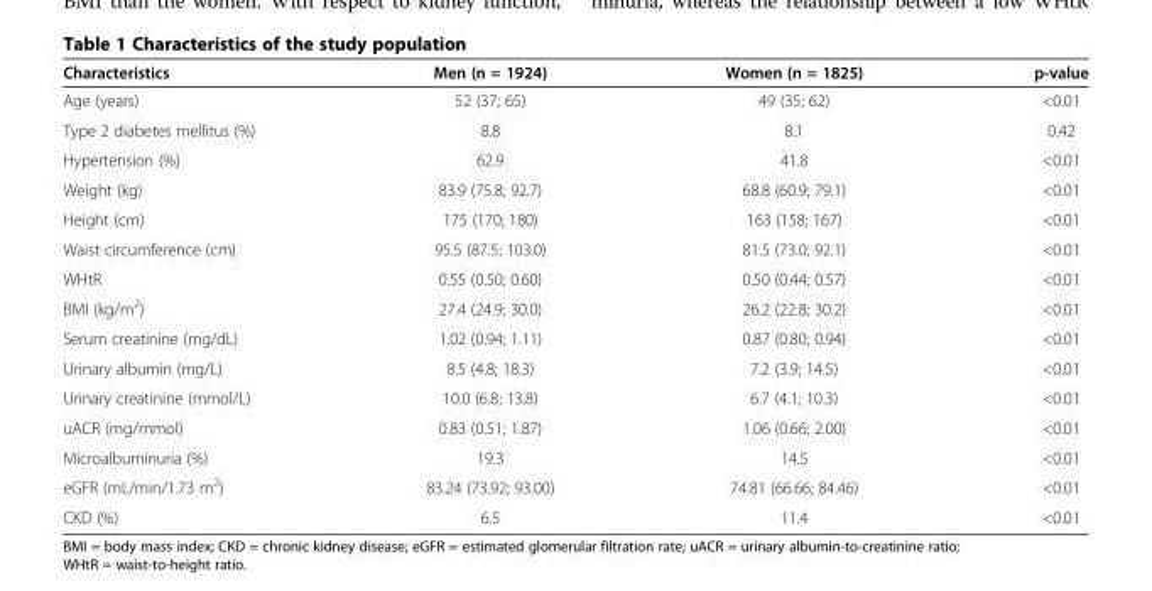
<table><thead><tr><td>Characteristics</td><td>Men (n = 1924)</td><td>Women (n = 1825)</td><td>p-value</td></tr></thead><tbody><tr><td>Age (years)</td><td>52 (37; 65)</td><td>49 (35; 62)</td><td>&lt;0.01</td></tr><tr><td>Type 2 diabetes mellitus (%)</td><td>8.8</td><td>8.1</td><td>0.42</td></tr><tr><td>Hypertension (%)</td><td>62.9</td><td>41.8</td><td>&lt;0.01</td></tr><tr><td>Weight (kg)</td><td>83.9 (75.8; 92.7)</td><td>68.8 (60.9; 79.1)</td><td>&lt;0.01</td></tr><tr><td>Height (cm)</td><td>175 (170; 180)</td><td>163 (158; 167)</td><td>&lt;0.01</td></tr><tr><td>Waist circumference (cm)</td><td>95.5 (87.5; 103.0)</td><td>81.5 (73.0; 92.1)</td><td>&lt;0.01</td></tr><tr><td>WHtR</td><td>0.55 (0.50; 0.60)</td><td>0.50 (0.44; 0.57)</td><td>&lt;0.01</td></tr><tr><td>BMI (kg/m<sup>2</sup>)</td><td>27.4 (24.9; 30.0)</td><td>26.2 (22.8; 30.2)</td><td>&lt;0.01</td></tr><tr><td>Serum creatinine (mg/dL)</td><td>1.02 (0.94; 1.11)</td><td>0.87 (0.80; 0.94)</td><td>&lt;0.01</td></tr><tr><td>Urinary albumin (mg/L)</td><td>8.5 (4.8; 18.3)</td><td>7.2 (3.9; 14.5)</td><td>&lt;0.01</td></tr><tr><td>Urinary creatinine (mmol/L)</td><td>10.0 (6.8; 13.8)</td><td>6.7 (4.1; 10.3)</td><td>&lt;0.01</td></tr><tr><td>uACR (mg/mmol)</td><td>0.83 (0.51; 1.87)</td><td>1.06 (0.66; 2.00)</td><td>&lt;0.01</td></tr><tr><td>Microalbuminuria (%)</td><td>19.3</td><td>14.5</td><td>&lt;0.01</td></tr><tr><td>eGFR (mL/min/1.73 m<sup>2</sup>)</td><td>83.24 (73.92; 93.00)</td><td>74.81 (66.66; 84.46)</td><td>&lt;0.01</td></tr><tr><td>CKD (%)</td><td>6.5</td><td>11.4</td><td>&lt;0.01</td></tr></tbody></table>